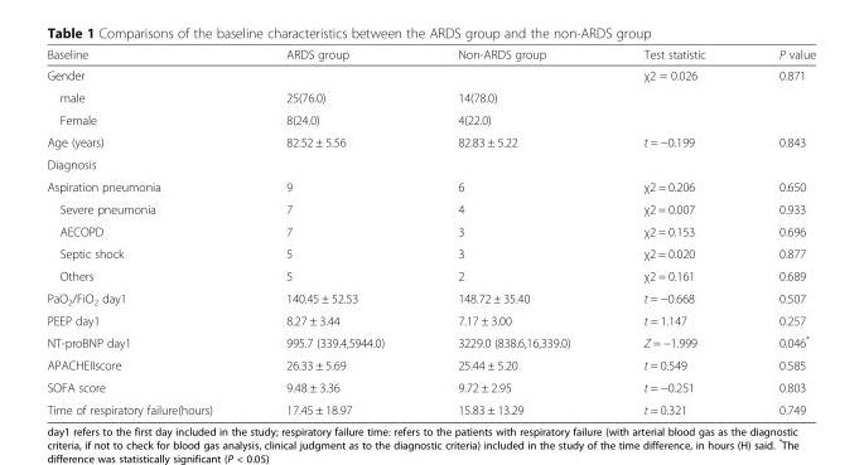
<table><thead><tr><td>Baseline</td><td>ARDS group</td><td>Non-ARDS group</td><td>Test statistic</td><td>P value</td></tr></thead><tbody><tr><td>Gender</td><td></td><td></td><td>χ2 = 0.026</td><td>0.871</td></tr><tr><td>male</td><td>25(76.0)</td><td>14(78.0)</td><td></td><td></td></tr><tr><td>Female</td><td>8(24.0)</td><td>4(22.0)</td><td></td><td></td></tr><tr><td>Age (years)</td><td>82.52 ± 5.56</td><td>82.83 ± 5.22</td><td>t = −0.199</td><td>0.843</td></tr><tr><td colspan="5">Diagnosis</td></tr><tr><td>Aspiration pneumonia</td><td>9</td><td>6</td><td>χ2 = 0.206</td><td>0.650</td></tr><tr><td>Severe pneumonia</td><td>7</td><td>4</td><td>χ2 = 0.007</td><td>0.933</td></tr><tr><td>AECOPD</td><td>7</td><td>3</td><td>χ2 = 0.153</td><td>0.696</td></tr><tr><td>Septic shock</td><td>5</td><td>3</td><td>χ2 = 0.020</td><td>0.877</td></tr><tr><td>Others</td><td>5</td><td>2</td><td>χ2 = 0.161</td><td>0.689</td></tr><tr><td>PaO<sub>2</sub>/FiO<sub>2</sub> day1</td><td>140.45 ± 52.53</td><td>148.72 ± 35.40</td><td>t = −0.668</td><td>0.507</td></tr><tr><td>PEEP day1</td><td>8.27 ± 3.44</td><td>7.17 ± 3.00</td><td>t = 1.147</td><td>0.257</td></tr><tr><td>NT-proBNP day1</td><td>995.7 (339.4,5944.0)</td><td>3229.0 (838.6,16,339.0)</td><td>Z = −1.999</td><td>0.046*</td></tr><tr><td>APACHEIIscore</td><td>26.33 ± 5.69</td><td>25.44 ± 5.20</td><td>t = 0.549</td><td>0.585</td></tr><tr><td>SOFA score</td><td>9.48 ± 3.36</td><td>9.72 ± 2.95</td><td>t = −0.251</td><td>0.803</td></tr><tr><td>Time of respiratory failure(hours)</td><td>17.45 ± 18.97</td><td>15.83 ± 13.29</td><td>t = 0.321</td><td>0.749</td></tr></tbody></table>